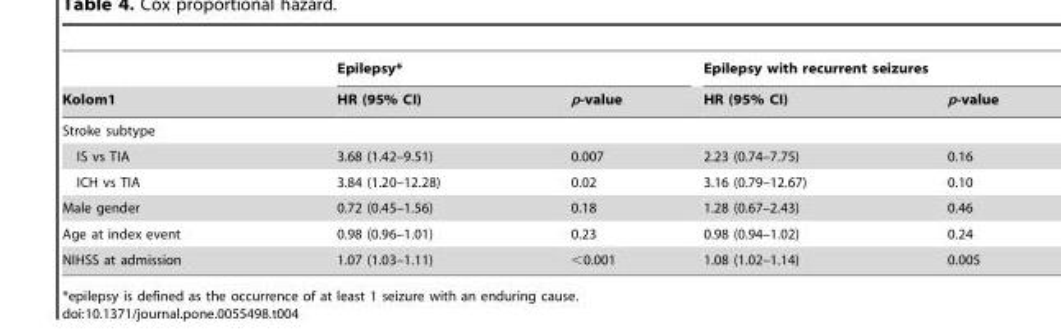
<table><thead><tr><td rowspan="2">Kolom1</td><td colspan="2">Epilepsy*</td><td colspan="2">Epilepsy with recurrent seizures</td></tr><tr><td>HR (95% CI)</td><td>p-value</td><td>HR (95% CI)</td><td>p-value</td></tr></thead><tbody><tr><td colspan="5">Stroke subtype</td></tr><tr><td>IS vs TIA</td><td>3.68 (1.42–9.51)</td><td>0.007</td><td>2.23 (0.74–7.75)</td><td>0.16</td></tr><tr><td>ICH vs TIA</td><td>3.84 (1.20–12.28)</td><td>0.02</td><td>3.16 (0.79–12.67)</td><td>0.10</td></tr><tr><td>Male gender</td><td>0.72 (0.45–1.56)</td><td>0.18</td><td>1.28 (0.67–2.43)</td><td>0.46</td></tr><tr><td>Age at index event</td><td>0.98 (0.96–1.01)</td><td>0.23</td><td>0.98 (0.94–1.02)</td><td>0.24</td></tr><tr><td>NIHSS at admission</td><td>1.07 (1.03–1.11)</td><td>&lt;0.001</td><td>1.08 (1.02–1.14)</td><td>0.005</td></tr></tbody></table>